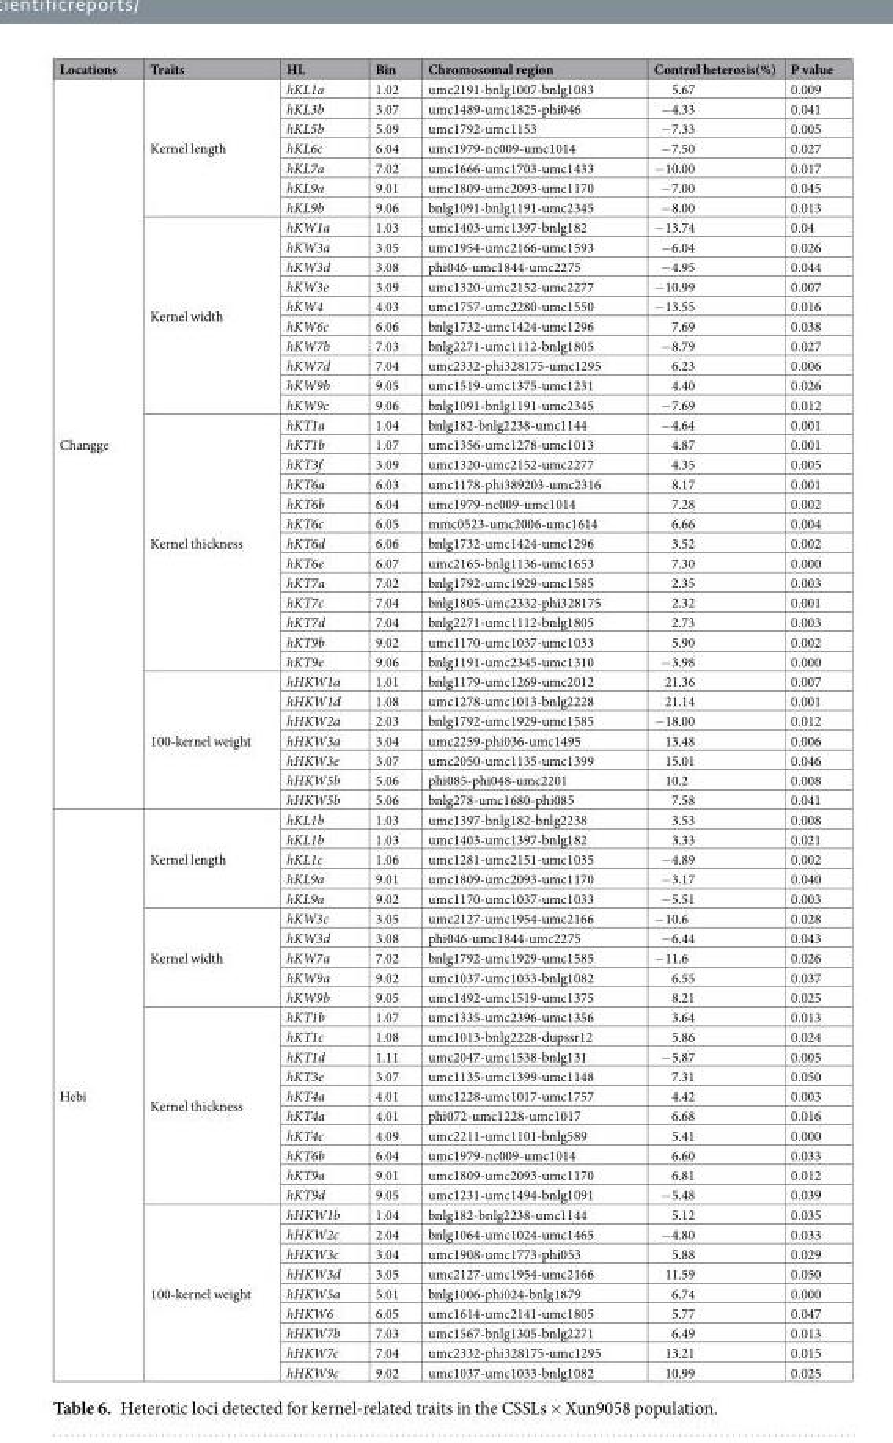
<table><thead><tr><td>Locations</td><td>Traits</td><td>HL</td><td>Bin</td><td>Chromosomal region</td><td>Control heterosis(%)</td><td>P value</td></tr></thead><tbody><tr><td rowspan="37">Changge</td><td rowspan="7">Kernel length</td><td>hKL1a</td><td>1.02</td><td>umc2191-bnlg1007-bnlg1083</td><td>5.67</td><td>0.009</td></tr><tr><td>hKL3b</td><td>3.07</td><td>umc1489-umc1825-phi046</td><td>−4.33</td><td>0.041</td></tr><tr><td>hKL5b</td><td>5.09</td><td>umc1792-umc1153</td><td>−7.33</td><td>0.005</td></tr><tr><td>hKL6c</td><td>6.04</td><td>umc1979-nc009-umc1014</td><td>−7.50</td><td>0.027</td></tr><tr><td>hKL7a</td><td>7.02</td><td>umc1666-umc1703-umc1433</td><td>−10.00</td><td>0.017</td></tr><tr><td>hKL9a</td><td>9.01</td><td>umc1809-umc2093-umc1170</td><td>−7.00</td><td>0.045</td></tr><tr><td>hKL9b</td><td>9.06</td><td>bnlg1091-bnlg1191-umc2345</td><td>−8.00</td><td>0.013</td></tr><tr><td rowspan="10">Kernel width</td><td>hKW1a</td><td>1.03</td><td>umc1403-umc1397-bnlg182</td><td>−13.74</td><td>0.04</td></tr><tr><td>hKW3a</td><td>3.05</td><td>umc1954-umc2166-umc1593</td><td>−6.04</td><td>0.026</td></tr><tr><td>hKW3d</td><td>3.08</td><td>phi046-umc1844-umc2275</td><td>−4.95</td><td>0.044</td></tr><tr><td>hKW3e</td><td>3.09</td><td>umc1320-umc2152-umc2277</td><td>−10.99</td><td>0.007</td></tr><tr><td>hKW4</td><td>4.03</td><td>umc1757-umc2280-umc1550</td><td>−13.55</td><td>0.016</td></tr><tr><td>hKW6c</td><td>6.06</td><td>bnlg1732-umc1424-umc1296</td><td>7.69</td><td>0.038</td></tr><tr><td>hKW7b</td><td>7.03</td><td>bnlg2271-umc1112-bnlg1805</td><td>−8.79</td><td>0.027</td></tr><tr><td>hKW7d</td><td>7.04</td><td>umc2332-phi328175-umc1295</td><td>6.23</td><td>0.006</td></tr><tr><td>hKW9b</td><td>9.05</td><td>umc1519-umc1375-umc1231</td><td>4.40</td><td>0.026</td></tr><tr><td>hKW9c</td><td>9.06</td><td>bnlg1091-bnlg1191-umc2345</td><td>−7.69</td><td>0.012</td></tr><tr><td rowspan="13">Kernel thickness</td><td>hKT1a</td><td>1.04</td><td>bnlg182-bnlg2238-umc1144</td><td>−4.64</td><td>0.001</td></tr><tr><td>hKT1b</td><td>1.07</td><td>umc1356-umc1278-umc1013</td><td>4.87</td><td>0.001</td></tr><tr><td>hKT3f</td><td>3.09</td><td>umc1320-umc2152-umc2277</td><td>4.35</td><td>0.005</td></tr><tr><td>hKT6a</td><td>6.03</td><td>umc1178-phi389203-umc2316</td><td>8.17</td><td>0.001</td></tr><tr><td>hKT6b</td><td>6.04</td><td>umc1979-nc009-umc1014</td><td>7.28</td><td>0.002</td></tr><tr><td>hKT6c</td><td>6.05</td><td>mmc0523-umc2006-umc1614</td><td>6.66</td><td>0.004</td></tr><tr><td>hKT6d</td><td>6.06</td><td>bnlg1732-umc1424-umc1296</td><td>3.52</td><td>0.002</td></tr><tr><td>hKT6e</td><td>6.07</td><td>umc2165-bnlg1136-umc1653</td><td>7.30</td><td>0.000</td></tr><tr><td>hKT7a</td><td>7.02</td><td>bnlg1792-umc1929-umc1585</td><td>2.35</td><td>0.003</td></tr><tr><td>hKT7c</td><td>7.04</td><td>bnlg1805-umc2332-phi328175</td><td>2.32</td><td>0.001</td></tr><tr><td>hKT7d</td><td>7.04</td><td>bnlg2271-umc1112-bnlg1805</td><td>2.73</td><td>0.003</td></tr><tr><td>hKT9b</td><td>9.02</td><td>umc1170-umc1037-umc1033</td><td>5.90</td><td>0.002</td></tr><tr><td>hKT9e</td><td>9.06</td><td>bnlg1191-umc2345-umc1310</td><td>−3.98</td><td>0.000</td></tr><tr><td rowspan="7">100-kernel weight</td><td>hHKW1a</td><td>1.01</td><td>bnlg1179-umc1269-umc2012</td><td>21.36</td><td>0.007</td></tr><tr><td>hHKW1d</td><td>1.08</td><td>umc1278-umc1013-bnlg2228</td><td>21.14</td><td>0.001</td></tr><tr><td>hHKW2a</td><td>2.03</td><td>bnlg1792-umc1929-umc1585</td><td>−18.00</td><td>0.012</td></tr><tr><td>hHKW3a</td><td>3.04</td><td>umc2259-phi036-umc1495</td><td>13.48</td><td>0.006</td></tr><tr><td>hHKW3e</td><td>3.07</td><td>umc2050-umc1135-umc1399</td><td>15.01</td><td>0.046</td></tr><tr><td>hHKW5b</td><td>5.06</td><td>phi085-phi048-umc2201</td><td>10.2</td><td>0.008</td></tr><tr><td>hHKW5b</td><td>5.06</td><td>bnlg278-umc1680-phi085</td><td>7.58</td><td>0.041</td></tr><tr><td rowspan="29">Hebi</td><td rowspan="5">Kernel length</td><td>hKL1b</td><td>1.03</td><td>umc1397-bnlg182-bnlg2238</td><td>3.53</td><td>0.008</td></tr><tr><td>hKL1b</td><td>1.03</td><td>umc1403-umc1397-bnlg182</td><td>3.33</td><td>0.021</td></tr><tr><td>hKL1c</td><td>1.06</td><td>umc1281-umc2151-umc1035</td><td>−4.89</td><td>0.002</td></tr><tr><td>hKL9a</td><td>9.01</td><td>umc1809-umc2093-umc1170</td><td>−3.17</td><td>0.040</td></tr><tr><td>hKL9a</td><td>9.02</td><td>umc1170-umc1037-umc1033</td><td>−5.51</td><td>0.003</td></tr><tr><td rowspan="5">Kernel width</td><td>hKW3c</td><td>3.05</td><td>umc2127-umc1954-umc2166</td><td>−10.6</td><td>0.028</td></tr><tr><td>hKW3d</td><td>3.08</td><td>phi046-umc1844-umc2275</td><td>−6.44</td><td>0.043</td></tr><tr><td>hKW7a</td><td>7.02</td><td>bnlg1792-umc1929-umc1585</td><td>−11.6</td><td>0.026</td></tr><tr><td>hKW9a</td><td>9.02</td><td>umc1037-umc1033-bnlg1082</td><td>6.55</td><td>0.037</td></tr><tr><td>hKW9b</td><td>9.05</td><td>umc1492-umc1519-umc1375</td><td>8.21</td><td>0.025</td></tr><tr><td rowspan="10">Kernel thickness</td><td>hKT1b</td><td>1.07</td><td>umc1335-umc2396-umc1356</td><td>3.64</td><td>0.013</td></tr><tr><td>hKT1c</td><td>1.08</td><td>umc1013-bnlg2228-dupssr12</td><td>5.86</td><td>0.024</td></tr><tr><td>hKT1d</td><td>1.11</td><td>umc2047-umc1538-bnlg131</td><td>−5.87</td><td>0.005</td></tr><tr><td>hKT3e</td><td>3.07</td><td>umc1135-umc1399-umc1148</td><td>7.31</td><td>0.050</td></tr><tr><td>hKT4a</td><td>4.01</td><td>umc1228-umc1017-umc1757</td><td>4.42</td><td>0.003</td></tr><tr><td>hKT4a</td><td>4.01</td><td>phi072-umc1228-umc1017</td><td>6.68</td><td>0.016</td></tr><tr><td>hKT4c</td><td>4.09</td><td>umc2211-umc1101-bnlg589</td><td>5.41</td><td>0.000</td></tr><tr><td>hKT6b</td><td>6.04</td><td>umc1979-nc009-umc1014</td><td>6.60</td><td>0.033</td></tr><tr><td>hKT9a</td><td>9.01</td><td>umc1809-umc2093-umc1170</td><td>6.81</td><td>0.012</td></tr><tr><td>hKT9d</td><td>9.05</td><td>umc1231-umc1494-bnlg1091</td><td>−5.48</td><td>0.039</td></tr><tr><td rowspan="9">100-kernel weight</td><td>hHKW1b</td><td>1.04</td><td>bnlg182-bnlg2238-umc1144</td><td>5.12</td><td>0.035</td></tr><tr><td>hHKW2c</td><td>2.04</td><td>bnlg1064-umc1024-umc1465</td><td>−4.80</td><td>0.033</td></tr><tr><td>hHKW3c</td><td>3.04</td><td>umc1908-umc1773-phi053</td><td>5.88</td><td>0.029</td></tr><tr><td>hHKW3d</td><td>3.05</td><td>umc2127-umc1954-umc2166</td><td>11.59</td><td>0.050</td></tr><tr><td>hHKW5a</td><td>5.01</td><td>bnlg1006-phi024-bnlg1879</td><td>6.74</td><td>0.000</td></tr><tr><td>hHKW6</td><td>6.05</td><td>umc1614-umc2141-umc1805</td><td>5.77</td><td>0.047</td></tr><tr><td>hHKW7b</td><td>7.03</td><td>umc1567-bnlg1305-bnlg2271</td><td>6.49</td><td>0.013</td></tr><tr><td>hHKW7c</td><td>7.04</td><td>umc2332-phi328175-umc1295</td><td>13.21</td><td>0.015</td></tr><tr><td>hHKW9c</td><td>9.02</td><td>umc1037-umc1033-bnlg1082</td><td>10.99</td><td>0.025</td></tr></tbody></table>